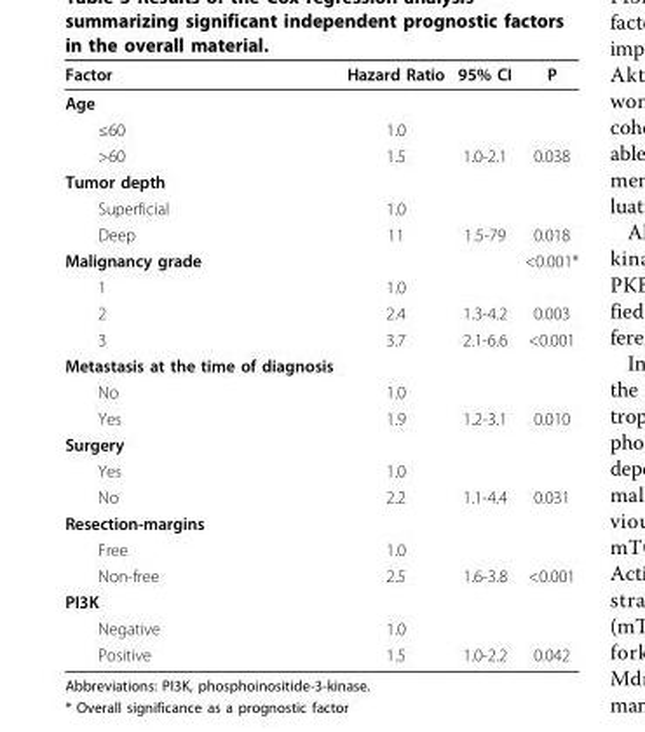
<table><thead><tr><td>Factor</td><td>Hazard Ratio</td><td>95% CI</td><td>P</td></tr></thead><tbody><tr><td colspan="4">Age</td></tr><tr><td>≤60</td><td>1.0</td><td></td><td></td></tr><tr><td>&gt;60</td><td>1.5</td><td>1.0-2.1</td><td>0.038</td></tr><tr><td colspan="4">Tumor depth</td></tr><tr><td>Superficial</td><td>1.0</td><td></td><td></td></tr><tr><td>Deep</td><td>11</td><td>1.5-79</td><td>0.018</td></tr><tr><td>Malignancy grade</td><td></td><td></td><td>&lt;0.001*</td></tr><tr><td>1</td><td>1.0</td><td></td><td></td></tr><tr><td>2</td><td>2.4</td><td>1.3-4.2</td><td>0.003</td></tr><tr><td>3</td><td>3.7</td><td>2.1-6.6</td><td>&lt;0.001</td></tr><tr><td colspan="4">Metastasis at the time of diagnosis</td></tr><tr><td>No</td><td>1.0</td><td></td><td></td></tr><tr><td>Yes</td><td>1.9</td><td>1.2-3.1</td><td>0.010</td></tr><tr><td colspan="4">Surgery</td></tr><tr><td>Yes</td><td>1.0</td><td></td><td></td></tr><tr><td>No</td><td>2.2</td><td>1.1-4.4</td><td>0.031</td></tr><tr><td colspan="4">Resection-margins</td></tr><tr><td>Free</td><td>1.0</td><td></td><td></td></tr><tr><td>Non-free</td><td>2.5</td><td>1.6-3.8</td><td>&lt;0.001</td></tr><tr><td colspan="4">PI3K</td></tr><tr><td>Negative</td><td>1.0</td><td></td><td></td></tr><tr><td>Positive</td><td>1.5</td><td>1.0-2.2</td><td>0.042</td></tr></tbody></table>